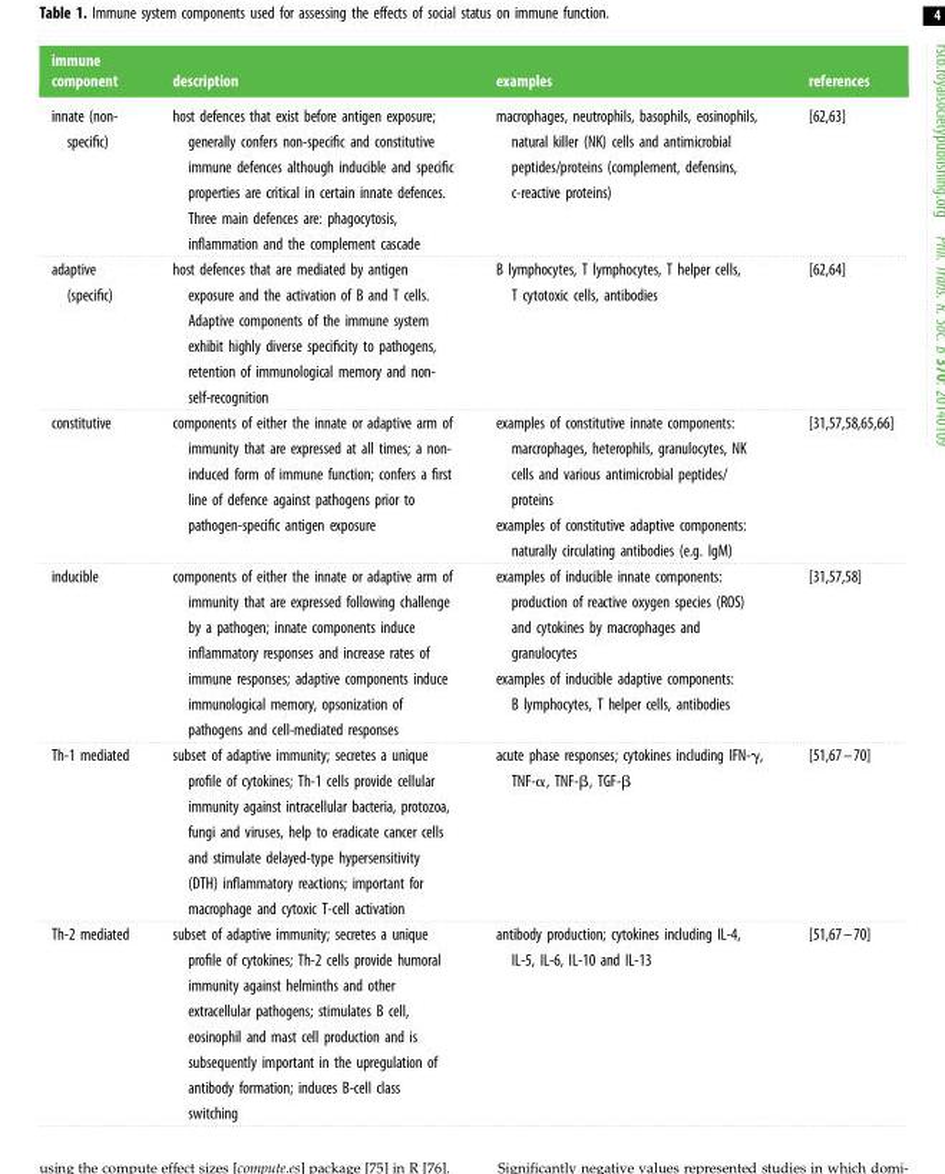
<table><thead><tr><td>immune component</td><td>description</td><td>examples</td><td>references</td></tr></thead><tbody><tr><td>innate (non- specific)</td><td>host defences that exist before antigen exposure; generally confers non-specific and constitutive immune defences although inducible and specific properties are critical in certain innate defences. Three main defences are: phagocytosis, inflammation and the complement cascade</td><td>macrophages, neutrophils, basophils, eosinophils, natural killer (NK) cells and antimicrobial peptides/proteins (complement, defensins, c-reactive proteins)</td><td>[62,63]</td></tr><tr><td>adaptive (specific)</td><td>host defences that are mediated by antigen exposure and the activation of B and T cells. Adaptive components of the immune system exhibit highly diverse specificity to pathogens, retention of immunological memory and non- self-recognition</td><td>B lymphocytes, T lymphocytes, T helper cells, T cytotoxic cells, antibodies</td><td>[62,64]</td></tr><tr><td>constitutive</td><td>components of either the innate or adaptive arm of immunity that are expressed at all times; a non- induced form of immune function; confers a first line of defence against pathogens prior to pathogen-specific antigen exposure</td><td>examples of constitutive innate components: marcrophages, heterophils, granulocytes, NK cells and various antimicrobial peptides/ proteins examples of constitutive adaptive components: naturally circulating antibodies (e.g. IgM)</td><td>[31,57,58,65,66]</td></tr><tr><td>inducible</td><td>components of either the innate or adaptive arm of immunity that are expressed following challenge by a pathogen; innate components induce inflammatory responses and increase rates of immune responses; adaptive components induce immunological memory, opsonization of pathogens and cell-mediated responses</td><td>examples of inducible innate components: production of reactive oxygen species (ROS) and cytokines by macrophages and granulocytes examples of inducible adaptive components: B lymphocytes, T helper cells, antibodies</td><td>[31,57,58]</td></tr><tr><td>Th-1 mediated</td><td>subset of adaptive immunity; secretes a unique profile of cytokines; Th-1 cells provide cellular immunity against intracellular bacteria, protozoa, fungi and viruses, help to eradicate cancer cells and stimulate delayed-type hypersensitivity (DTH) inflammatory reactions; important for macrophage and cytoxic T-cell activation</td><td>acute phase responses; cytokines including IFN-γ, TNF-α, TNF-β, TGF-β</td><td>[51,67–70]</td></tr><tr><td>Th-2 mediated</td><td>subset of adaptive immunity; secretes a unique profile of cytokines; Th-2 cells provide humoral immunity against helminths and other extracellular pathogens; stimulates B cell, eosinophil and mast cell production and is subsequently important in the upregulation of antibody formation; induces B-cell class switching</td><td>antibody production; cytokines including IL-4, IL-5, IL-6, IL-10 and IL-13</td><td>[51,67–70]</td></tr></tbody></table>